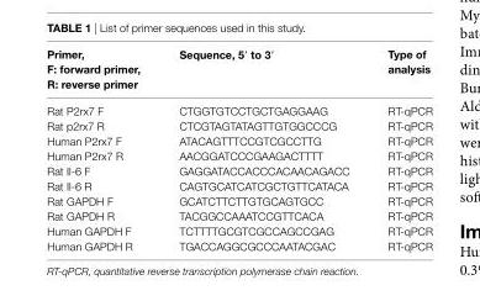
<table><thead><tr><td>Primer, F: forward primer, r: reverse primer</td><td>sequence, 5′ to 3′</td><td>Type of analysis</td></tr></thead><tbody><tr><td>Rat P2rx7 F</td><td>CTGGTGTCCTGCTGAGGAAG</td><td>RT-qPCR</td></tr><tr><td>Rat p2rx7 R</td><td>CTCGTAGTATAGTTGTGGCCCG</td><td>RT-qPCR</td></tr><tr><td>Human P2rx7 F</td><td>ATACAGTTTCCGTCGCCTTG</td><td>RT-qPCR</td></tr><tr><td>Human P2rx7 R</td><td>AACGGATCCCGAAGACTTTT</td><td>RT-qPCR</td></tr><tr><td>Rat Il-6 F</td><td>GAGGATACCACCCACAACAGACC</td><td>RT-qPCR</td></tr><tr><td>Rat Il-6 R</td><td>CAGTGCATCATCGCTGTTCATACA</td><td>RT-qPCR</td></tr><tr><td>Rat GAPDH F</td><td>GCATCTTCTTGTGCAGTGCC</td><td>RT-qPCR</td></tr><tr><td>Rat GAPDH R</td><td>TACGGCCAAATCCGTTCACA</td><td>RT-qPCR</td></tr><tr><td>Human GAPDH F</td><td>TCTTTTGCGTCGCCAGCCGAG</td><td>RT-qPCR</td></tr><tr><td>Human GAPDH R</td><td>TGACCAGGCGCCCAATACGAC</td><td>RT-qPCR</td></tr></tbody></table>